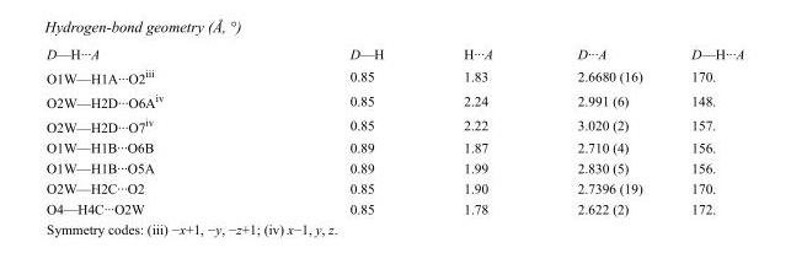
<table><tbody><tr><td>D—H···A</td><td>D—H</td><td>H···A</td><td>D···A</td><td>D—H···A</td></tr><tr><td>O1W—H1A···O2<sup>iii</sup></td><td>0.85</td><td>1.83</td><td>2.6680 (16)</td><td>170.</td></tr><tr><td>O2W—H2D···O6A<sup>iv</sup></td><td>0.85</td><td>2.24</td><td>2.991 (6)</td><td>148.</td></tr><tr><td>O2W—H2D···O7<sup>iv</sup></td><td>0.85</td><td>2.22</td><td>3.020 (2)</td><td>157.</td></tr><tr><td>O1W—H1B···O6B</td><td>0.89</td><td>1.87</td><td>2.710 (4)</td><td>156.</td></tr><tr><td>O1W—H1B···O5A</td><td>0.89</td><td>1.99</td><td>2.830 (5)</td><td>156.</td></tr><tr><td>O2W—H2C···O2</td><td>0.85</td><td>1.90</td><td>2.7396 (19)</td><td>170.</td></tr><tr><td>O4—H4C···O2W</td><td>0.85</td><td>1.78</td><td>2.622 (2)</td><td>172.</td></tr></tbody></table>